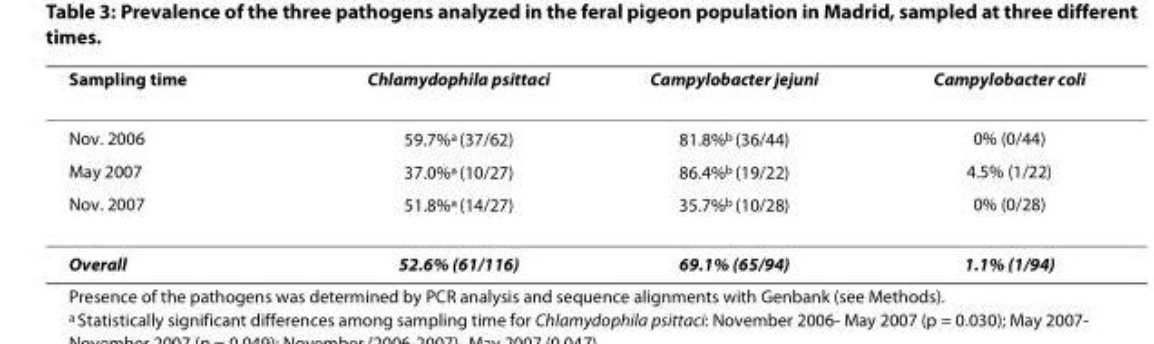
<table><thead><tr><td>Sampling time</td><td>Chlamydophila psittaci</td><td>Campylobacter jejuni</td><td>Campylobacter coli</td></tr></thead><tbody><tr><td>Nov. 2006</td><td>59.7%<sup>a</sup> (37/62)</td><td>81.8%<sup>b</sup> (36/44)</td><td>0% (0/44)</td></tr><tr><td>May 2007</td><td>37.0%<sup>a</sup> (10/27)</td><td>86.4%<sup>b</sup> (19/22)</td><td>4.5% (1/22)</td></tr><tr><td>Nov. 2007</td><td>51.8%<sup>a</sup> (14/27)</td><td>35.7%<sup>b</sup> (10/28)</td><td>0% (0/28)</td></tr><tr><td>Overall</td><td>52.6% (61/116)</td><td>69.1% (65/94)</td><td>1.1% (1/94)</td></tr></tbody></table>